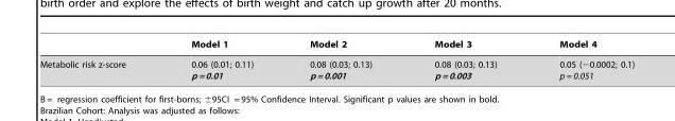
<table><thead><tr><td></td><td>Model 1</td><td>Model 2</td><td>Model 3</td><td>Model 4</td></tr></thead><tbody><tr><td>Metabolic risk z-score</td><td>0.06 (0.01; 0.11) p = 0.01</td><td>0.08 (0.03; 0.13) p = 0.001</td><td>0.08 (0.03; 0.13) p = 0.003</td><td>0.05 (−0.0002; 0.1) p = 0.051</td></tr></tbody></table>